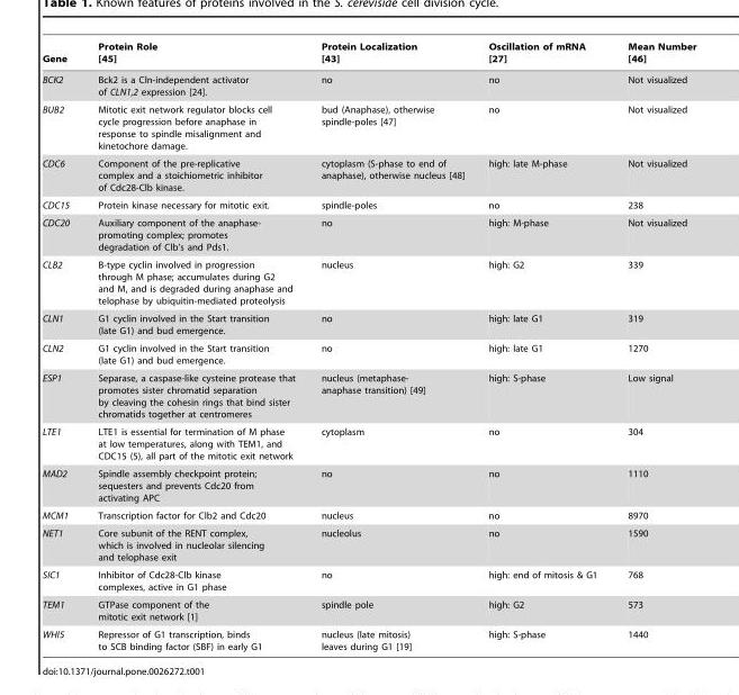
<table><thead><tr><td>Gene</td><td>Protein Role [45]</td><td>Protein Localization [43]</td><td>Oscillation of mRNA [27]</td><td>Mean Number [46]</td></tr></thead><tbody><tr><td>BCK2</td><td>Bck2 is a Cln-independent activator of CLN1,2 expression [24].</td><td>no</td><td>no</td><td>Not visualized</td></tr><tr><td>BUB2</td><td>Mitotic exit network regulator blocks cell cycle progression before anaphase in response to spindle misalignment and kinetochore damage.</td><td>bud (Anaphase), otherwise spindle-poles [47]</td><td>no</td><td>Not visualized</td></tr><tr><td>CDC6</td><td>Component of the pre-replicative complex and a stoichiometric inhibitor of Cdc28-Clb kinase.</td><td>cytoplasm (S-phase to end of anaphase), otherwise nucleus [48]</td><td>high: late M-phase</td><td>Not visualized</td></tr><tr><td>CDC15</td><td>Protein kinase necessary for mitotic exit.</td><td>spindle-poles</td><td>no</td><td>238</td></tr><tr><td>CDC20</td><td>Auxiliary component of the anaphase- promoting complex; promotes degradation of Clb’s and Pds1.</td><td>no</td><td>high: M-phase</td><td>Not visualized</td></tr><tr><td>CLB2</td><td>B-type cyclin involved in progression through M phase; accumulates during G2 and M, and is degraded during anaphase and telophase by ubiquitin-mediated proteolysis</td><td>nucleus</td><td>high: G2</td><td>339</td></tr><tr><td>CLN1</td><td>G1 cyclin involved in the Start transition (late G1) and bud emergence.</td><td>no</td><td>high: late G1</td><td>319</td></tr><tr><td>CLN2</td><td>G1 cyclin involved in the Start transition (late G1) and bud emergence.</td><td>no</td><td>high: late G1</td><td>1270</td></tr><tr><td>ESP1</td><td>Separase, a caspase-like cysteine protease that promotes sister chromatid separation by cleaving the cohesin rings that bind sister chromatids together at centromeres</td><td>nucleus (metaphase- anaphase transition) [49]</td><td>high: S-phase</td><td>Low signal</td></tr><tr><td>LTE1</td><td>LTE1 is essential for termination of M phase at low temperatures, along with TEM1, and CDC15 (5), all part of the mitotic exit network</td><td>cytoplasm</td><td>no</td><td>304</td></tr><tr><td>MAD2</td><td>Spindle assembly checkpoint protein; sequesters and prevents Cdc20 from activating APC</td><td>no</td><td>no</td><td>1110</td></tr><tr><td>MCM1</td><td>Transcription factor for Clb2 and Cdc20</td><td>nucleus</td><td>no</td><td>8970</td></tr><tr><td>NET1</td><td>Core subunit of the RENT complex, which is involved in nucleolar silencing and telophase exit</td><td>nucleolus</td><td>no</td><td>1590</td></tr><tr><td>SIC1</td><td>Inhibitor of Cdc28-Clb kinase complexes, active in G1 phase</td><td>no</td><td>high: end of mitosis &amp; G1</td><td>768</td></tr><tr><td>TEM1</td><td>GTPase component of the mitotic exit network [1]</td><td>spindle pole</td><td>high: G2</td><td>573</td></tr><tr><td>WHI5</td><td>Repressor of G1 transcription, binds to SCB binding factor (SBF) in early G1</td><td>nucleus (late mitosis) leaves during G1 [19]</td><td>high: S-phase</td><td>1440</td></tr></tbody></table>